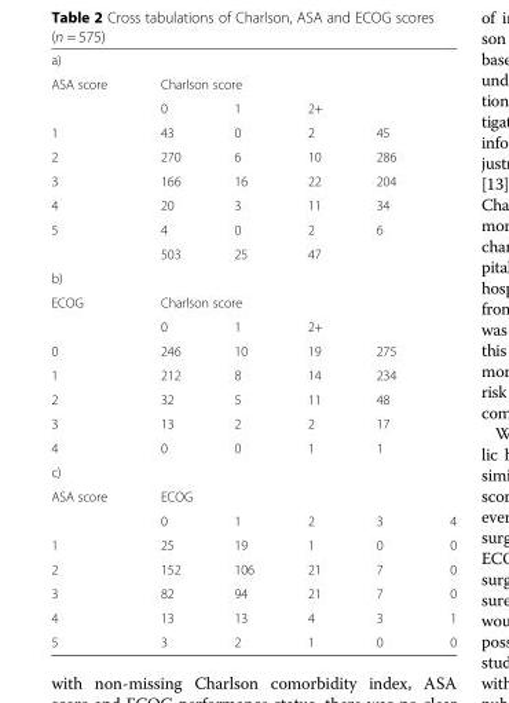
<table><tbody><tr><td colspan="6">a)</td></tr><tr><td rowspan="2">ASA score</td><td colspan="4">Charlson score</td><td></td></tr><tr><td>0</td><td>1</td><td>2+</td><td></td><td></td></tr><tr><td>1</td><td>43</td><td>0</td><td>2</td><td>45</td><td></td></tr><tr><td>2</td><td>270</td><td>6</td><td>10</td><td>286</td><td></td></tr><tr><td>3</td><td>166</td><td>16</td><td>22</td><td>204</td><td></td></tr><tr><td>4</td><td>20</td><td>3</td><td>11</td><td>34</td><td></td></tr><tr><td rowspan="2">5</td><td>4</td><td>0</td><td>2</td><td>6</td><td></td></tr><tr><td>503</td><td>25</td><td>47</td><td></td><td></td></tr><tr><td colspan="6">b)</td></tr><tr><td rowspan="2">ECOG</td><td colspan="4">Charlson score</td><td></td></tr><tr><td>0</td><td>1</td><td>2+</td><td></td><td></td></tr><tr><td>0</td><td>246</td><td>10</td><td>19</td><td>275</td><td></td></tr><tr><td>1</td><td>212</td><td>8</td><td>14</td><td>234</td><td></td></tr><tr><td>2</td><td>32</td><td>5</td><td>11</td><td>48</td><td></td></tr><tr><td>3</td><td>13</td><td>2</td><td>2</td><td>17</td><td></td></tr><tr><td>4</td><td>0</td><td>0</td><td>1</td><td>1</td><td></td></tr><tr><td colspan="6">c)</td></tr><tr><td rowspan="2">ASA score</td><td colspan="4">ECOG</td><td></td></tr><tr><td>0</td><td>1</td><td>2</td><td>3</td><td>4</td></tr><tr><td>1</td><td>25</td><td>19</td><td>1</td><td>0</td><td>0</td></tr><tr><td>2</td><td>152</td><td>106</td><td>21</td><td>7</td><td>0</td></tr><tr><td>3</td><td>82</td><td>94</td><td>21</td><td>7</td><td>0</td></tr><tr><td>4</td><td>13</td><td>13</td><td>4</td><td>3</td><td>1</td></tr><tr><td>5</td><td>3</td><td>2</td><td>1</td><td>0</td><td>0</td></tr></tbody></table>